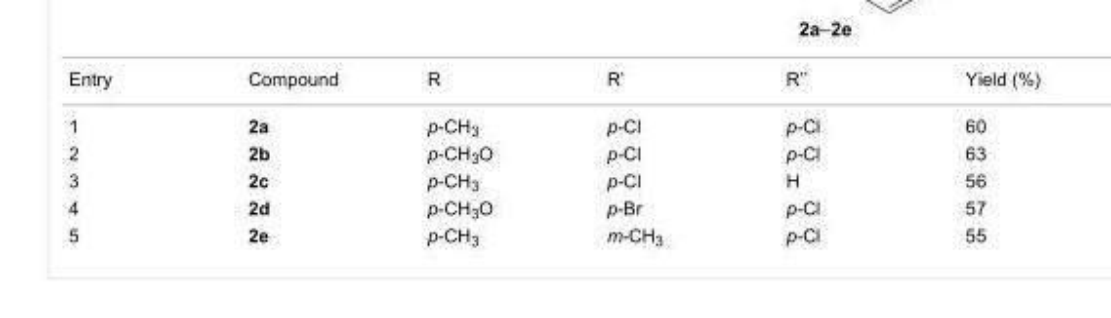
<table><tbody><tr><td>Entry</td><td>Compound</td><td>R</td><td>R’</td><td>R’’</td><td>Yield (%)</td></tr><tr><td>1</td><td>2a</td><td>p-CH<sub>3</sub></td><td>p-Cl</td><td>p-Cl</td><td>60</td></tr><tr><td>2</td><td>2b</td><td>p-CH<sub>3</sub>O</td><td>p-Cl</td><td>p-Cl</td><td>63</td></tr><tr><td>3</td><td>2c</td><td>p-CH<sub>3</sub></td><td>p-Cl</td><td>H</td><td>56</td></tr><tr><td>4</td><td>2d</td><td>p-CH<sub>3</sub>O</td><td>p-Br</td><td>p-Cl</td><td>57</td></tr><tr><td>5</td><td>2e</td><td>p-CH<sub>3</sub></td><td>m-CH<sub>3</sub></td><td>p-Cl</td><td>55</td></tr></tbody></table>